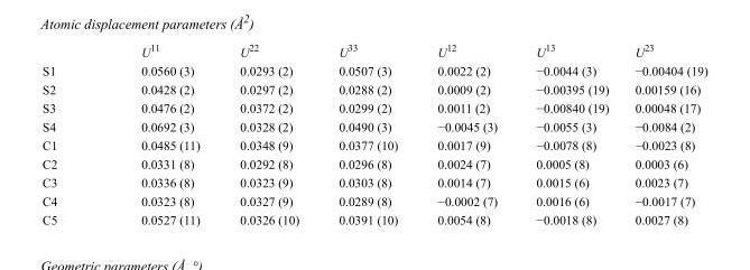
<table><thead><tr><td></td><td>U<sup>11</sup></td><td>U<sup>22</sup></td><td>U<sup>33</sup></td><td>U<sup>12</sup></td><td>U<sup>13</sup></td><td>U<sup>23</sup></td></tr></thead><tbody><tr><td>S1</td><td>0.0560 (3)</td><td>0.0293 (2)</td><td>0.0507 (3)</td><td>0.0022 (2)</td><td>−0.0044 (3)</td><td>−0.00404 (19)</td></tr><tr><td>S2</td><td>0.0428 (2)</td><td>0.0297 (2)</td><td>0.0288 (2)</td><td>0.0009 (2)</td><td>−0.00395 (19)</td><td>0.00159 (16)</td></tr><tr><td>S3</td><td>0.0476 (2)</td><td>0.0372 (2)</td><td>0.0299 (2)</td><td>0.0011 (2)</td><td>−0.00840 (19)</td><td>0.00048 (17)</td></tr><tr><td>S4</td><td>0.0692 (3)</td><td>0.0328 (2)</td><td>0.0490 (3)</td><td>−0.0045 (3)</td><td>−0.0055 (3)</td><td>−0.0084 (2)</td></tr><tr><td>C1</td><td>0.0485 (11)</td><td>0.0348 (9)</td><td>0.0377 (10)</td><td>0.0017 (9)</td><td>−0.0078 (8)</td><td>−0.0023 (8)</td></tr><tr><td>C2</td><td>0.0331 (8)</td><td>0.0292 (8)</td><td>0.0296 (8)</td><td>0.0024 (7)</td><td>0.0005 (8)</td><td>0.0003 (6)</td></tr><tr><td>C3</td><td>0.0336 (8)</td><td>0.0323 (9)</td><td>0.0303 (8)</td><td>0.0014 (7)</td><td>0.0015 (6)</td><td>0.0023 (7)</td></tr><tr><td>C4</td><td>0.0323 (8)</td><td>0.0327 (9)</td><td>0.0289 (8)</td><td>−0.0002 (7)</td><td>0.0016 (6)</td><td>−0.0017 (7)</td></tr><tr><td>C5</td><td>0.0527 (11)</td><td>0.0326 (10)</td><td>0.0391 (10)</td><td>0.0054 (8)</td><td>−0.0018 (8)</td><td>0.0027 (8)</td></tr></tbody></table>